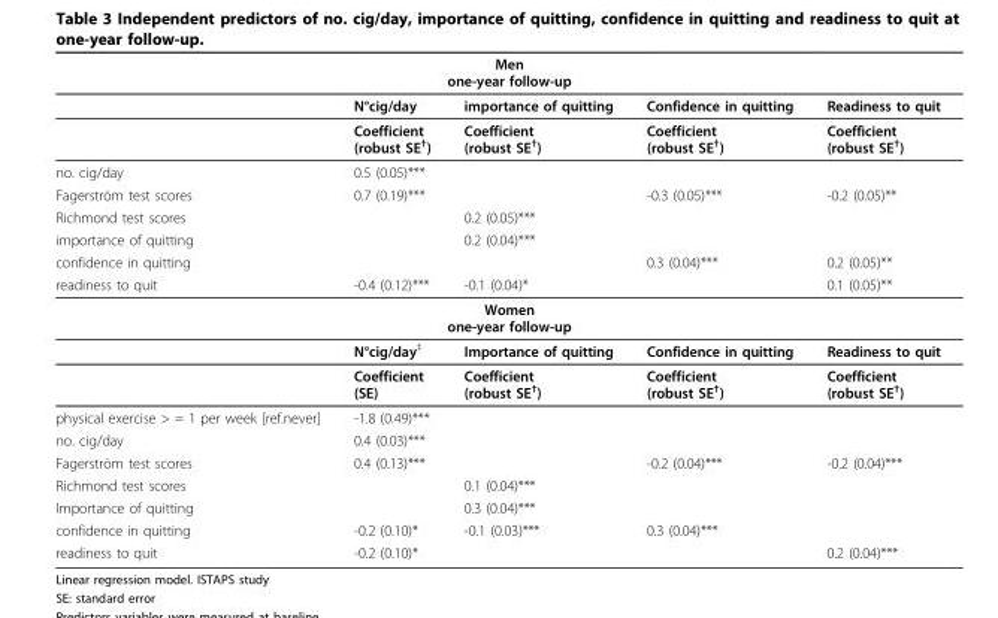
<table><thead><tr><td colspan="5">Men one-year follow-up</td></tr><tr><td></td><td>N°cig/day</td><td>importance of quitting</td><td>Confidence in quitting</td><td>Readiness to quit</td></tr></thead><tbody><tr><td></td><td>Coefficient (robust SE<sup>†</sup>)</td><td>Coefficient (robust SE<sup>†</sup>)</td><td>Coefficient (robust SE<sup>†</sup>)</td><td>Coefficient (robust SE<sup>†</sup>)</td></tr><tr><td>no. cig/day</td><td>0.5 (0.05)***</td><td></td><td></td><td></td></tr><tr><td>Fagerström test scores</td><td>0.7 (0.19)***</td><td></td><td>-0.3 (0.05)***</td><td>-0.2 (0.05)**</td></tr><tr><td>Richmond test scores</td><td></td><td>0.2 (0.05)***</td><td></td><td></td></tr><tr><td>importance of quitting</td><td></td><td>0.2 (0.04)***</td><td></td><td></td></tr><tr><td>confidence in quitting</td><td></td><td></td><td>0.3 (0.04)***</td><td>0.2 (0.05)**</td></tr><tr><td>readiness to quit</td><td>-0.4 (0.12)***</td><td>-0.1 (0.04)*</td><td></td><td>0.1 (0.05)**</td></tr><tr><td colspan="5">Women one-year follow-up</td></tr><tr><td></td><td>N°cig/day<sup>‡</sup></td><td>Importance of quitting</td><td>Confidence in quitting</td><td>Readiness to quit</td></tr><tr><td></td><td>Coefficient (SE)</td><td>Coefficient (robust SE<sup>†</sup>)</td><td>Coefficient (robust SE<sup>†</sup>)</td><td>Coefficient (robust SE<sup>†</sup>)</td></tr><tr><td>physical exercise &gt; = 1 per week [ref.never]</td><td>-1.8 (0.49)***</td><td></td><td></td><td></td></tr><tr><td>no. cig/day</td><td>0.4 (0.03)***</td><td></td><td></td><td></td></tr><tr><td>Fagerström test scores</td><td>0.4 (0.13)***</td><td></td><td>-0.2 (0.04)***</td><td>-0.2 (0.04)***</td></tr><tr><td>Richmond test scores</td><td></td><td>0.1 (0.04)***</td><td></td><td></td></tr><tr><td>Importance of quitting</td><td></td><td>0.3 (0.04)***</td><td></td><td></td></tr><tr><td>confidence in quitting</td><td>-0.2 (0.10)*</td><td>-0.1 (0.03)***</td><td>0.3 (0.04)***</td><td></td></tr><tr><td>readiness to quit</td><td>-0.2 (0.10)*</td><td></td><td></td><td>0.2 (0.04)***</td></tr></tbody></table>